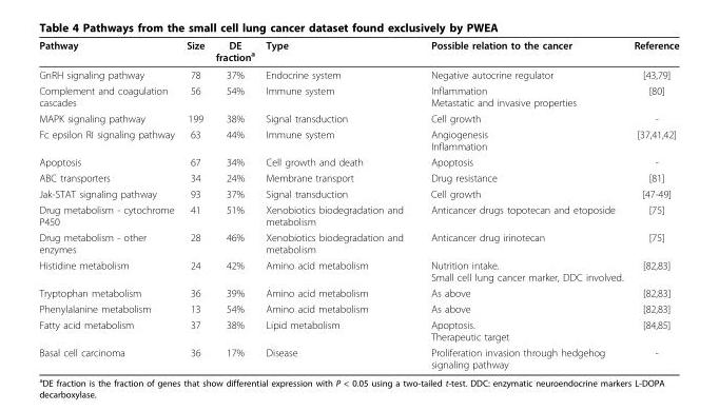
<table><thead><tr><td>Pathway</td><td>Size</td><td>DE fraction<sup>a</sup></td><td>Type</td><td>Possible relation to the cancer</td><td>Reference</td></tr></thead><tbody><tr><td>GnRH signaling pathway</td><td>78</td><td>37%</td><td>Endocrine system</td><td>Negative autocrine regulator</td><td>[43,79]</td></tr><tr><td>Complement and coagulation cascades</td><td>56</td><td>54%</td><td>Immune system</td><td>Inflammation Metastatic and invasive properties</td><td>[80]</td></tr><tr><td>MAPK signaling pathway</td><td>199</td><td>38%</td><td>Signal transduction</td><td>Cell growth</td><td>-</td></tr><tr><td>Fc epsilon RI signaling pathway</td><td>63</td><td>44%</td><td>Immune system</td><td>Angiogenesis Inflammation</td><td>[37,41,42]</td></tr><tr><td>Apoptosis</td><td>67</td><td>34%</td><td>Cell growth and death</td><td>Apoptosis</td><td>-</td></tr><tr><td>ABC transporters</td><td>34</td><td>24%</td><td>Membrane transport</td><td>Drug resistance</td><td>[81]</td></tr><tr><td>Jak-STAT signaling pathway</td><td>93</td><td>37%</td><td>Signal transduction</td><td>Cell growth</td><td>[47-49]</td></tr><tr><td>Drug metabolism - cytochrome P450</td><td>41</td><td>51%</td><td>Xenobiotics biodegradation and metabolism</td><td>Anticancer drugs topotecan and etoposide</td><td>[75]</td></tr><tr><td>Drug metabolism - other enzymes</td><td>28</td><td>46%</td><td>Xenobiotics biodegradation and metabolism</td><td>Anticancer drug irinotecan</td><td>[75]</td></tr><tr><td>Histidine metabolism</td><td>24</td><td>42%</td><td>Amino acid metabolism</td><td>Nutrition intake. Small cell lung cancer marker, DDC involved.</td><td>[82,83]</td></tr><tr><td>Tryptophan metabolism</td><td>36</td><td>39%</td><td>Amino acid metabolism</td><td>As above</td><td>[82,83]</td></tr><tr><td>Phenylalanine metabolism</td><td>13</td><td>54%</td><td>Amino acid metabolism</td><td>As above</td><td>[82,83]</td></tr><tr><td>Fatty acid metabolism</td><td>37</td><td>38%</td><td>Lipid metabolism</td><td>Apoptosis. Therapeutic target</td><td>[84,85]</td></tr><tr><td>Basal cell carcinoma</td><td>36</td><td>17%</td><td>Disease</td><td>Proliferation invasion through hedgehog signaling pathway</td><td>-</td></tr></tbody></table>